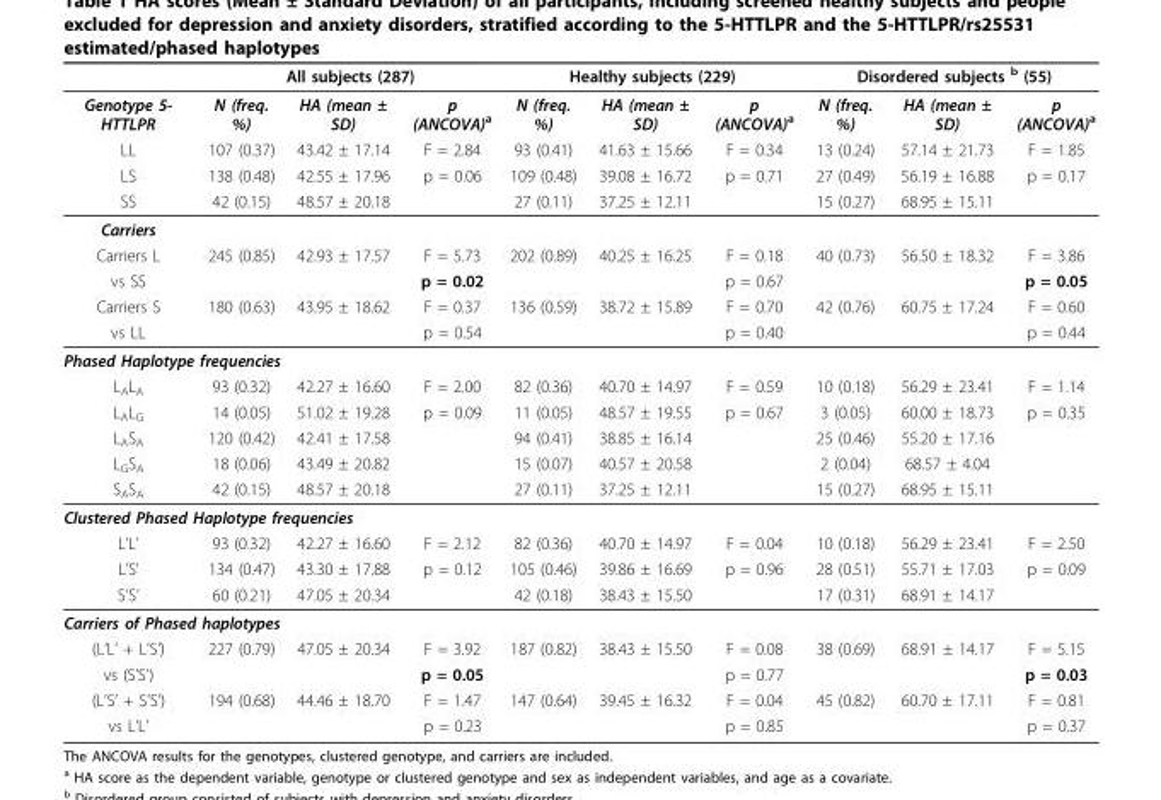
<table><thead><tr><td rowspan="2">Genotype 5- HTTLPR</td><td colspan="3">All subjects (287)</td><td colspan="3">Healthy subjects (229)</td><td colspan="3">Disordered subjects <sup>b</sup> (55)</td></tr><tr><td>N (freq. %)</td><td>HA (mean ± SD)</td><td>p (ANCOVA)<sup>a</sup></td><td>N (freq. %)</td><td>HA (mean ± SD)</td><td>p (ANCOVA)<sup>a</sup></td><td>N (freq. %)</td><td>HA (mean ± SD)</td><td>p (ANCOVA)<sup>a</sup></td></tr></thead><tbody><tr><td>LL</td><td>107 (0.37)</td><td>43.42 ± 17.14</td><td>F = 2.84</td><td>93 (0.41)</td><td>41.63 ± 15.66</td><td>F = 0.34</td><td>13 (0.24)</td><td>57.14 ± 21.73</td><td>F = 1.85</td></tr><tr><td>LS</td><td>138 (0.48)</td><td>42.55 ± 17.96</td><td>p = 0.06</td><td>109 (0.48)</td><td>39.08 ± 16.72</td><td>p = 0.71</td><td>27 (0.49)</td><td>56.19 ± 16.88</td><td>p = 0.17</td></tr><tr><td>SS</td><td>42 (0.15)</td><td>48.57 ± 20.18</td><td></td><td>27 (0.11)</td><td>37.25 ± 12.11</td><td></td><td>15 (0.27)</td><td>68.95 ± 15.11</td><td></td></tr><tr><td colspan="10">Carriers</td></tr><tr><td>Carriers L</td><td>245 (0.85)</td><td>42.93 ± 17.57</td><td>F = 5.73</td><td>202 (0.89)</td><td>40.25 ± 16.25</td><td>F = 0.18</td><td>40 (0.73)</td><td>56.50 ± 18.32</td><td>F = 3.86</td></tr><tr><td>vs SS</td><td></td><td></td><td>p = 0.02</td><td></td><td></td><td>p = 0.67</td><td></td><td></td><td>p = 0.05</td></tr><tr><td>Carriers S</td><td>180 (0.63)</td><td>43.95 ± 18.62</td><td>F = 0.37</td><td>136 (0.59)</td><td>38.72 ± 15.89</td><td>F = 0.70</td><td>42 (0.76)</td><td>60.75 ± 17.24</td><td>F = 0.60</td></tr><tr><td>vs LL</td><td></td><td></td><td>p = 0.54</td><td></td><td></td><td>p = 0.40</td><td></td><td></td><td>p = 0.44</td></tr><tr><td colspan="10">Phased Haplotype frequencies</td></tr><tr><td>L<sub>A</sub>L<sub>A</sub></td><td>93 (0.32)</td><td>42.27 ± 16.60</td><td>F = 2.00</td><td>82 (0.36)</td><td>40.70 ± 14.97</td><td>F = 0.59</td><td>10 (0.18)</td><td>56.29 ± 23.41</td><td>F = 1.14</td></tr><tr><td>L<sub>A</sub>L<sub>G</sub></td><td>14 (0.05)</td><td>51.02 ± 19.28</td><td>p = 0.09</td><td>11 (0.05)</td><td>48.57 ± 19.55</td><td>p = 0.67</td><td>3 (0.05)</td><td>60.00 ± 18.73</td><td>p = 0.35</td></tr><tr><td>L<sub>A</sub>S<sub>A</sub></td><td>120 (0.42)</td><td>42.41 ± 17.58</td><td></td><td>94 (0.41)</td><td>38.85 ± 16.14</td><td></td><td>25 (0.46)</td><td>55.20 ± 17.16</td><td></td></tr><tr><td>L<sub>G</sub>S<sub>A</sub></td><td>18 (0.06)</td><td>43.49 ± 20.82</td><td></td><td>15 (0.07)</td><td>40.57 ± 20.58</td><td></td><td>2 (0.04)</td><td>68.57 ± 4.04</td><td></td></tr><tr><td>S<sub>A</sub>S<sub>A</sub></td><td>42 (0.15)</td><td>48.57 ± 20.18</td><td></td><td>27 (0.11)</td><td>37.25 ± 12.11</td><td></td><td>15 (0.27)</td><td>68.95 ± 15.11</td><td></td></tr><tr><td colspan="10">Clustered Phased Haplotype frequencies</td></tr><tr><td>L’L’</td><td>93 (0.32)</td><td>42.27 ± 16.60</td><td>F = 2.12</td><td>82 (0.36)</td><td>40.70 ± 14.97</td><td>F = 0.04</td><td>10 (0.18)</td><td>56.29 ± 23.41</td><td>F = 2.50</td></tr><tr><td>L’S’</td><td>134 (0.47)</td><td>43.30 ± 17.88</td><td>p = 0.12</td><td>105 (0.46)</td><td>39.86 ± 16.69</td><td>p = 0.96</td><td>28 (0.51)</td><td>55.71 ± 17.03</td><td>p = 0.09</td></tr><tr><td>S’S’</td><td>60 (0.21)</td><td>47.05 ± 20.34</td><td></td><td>42 (0.18)</td><td>38.43 ± 15.50</td><td></td><td>17 (0.31)</td><td>68.91 ± 14.17</td><td></td></tr><tr><td colspan="10">Carriers of Phased haplotypes</td></tr><tr><td>(L’L’ + L’S’)</td><td>227 (0.79)</td><td>47.05 ± 20.34</td><td>F = 3.92</td><td>187 (0.82)</td><td>38.43 ± 15.50</td><td>F = 0.08</td><td>38 (0.69)</td><td>68.91 ± 14.17</td><td>F = 5.15</td></tr><tr><td>vs (S’S’)</td><td></td><td></td><td>p = 0.05</td><td></td><td></td><td>p = 0.77</td><td></td><td></td><td>p = 0.03</td></tr><tr><td>(L’S’ + S’S’)</td><td>194 (0.68)</td><td>44.46 ± 18.70</td><td>F = 1.47</td><td>147 (0.64)</td><td>39.45 ± 16.32</td><td>F = 0.04</td><td>45 (0.82)</td><td>60.70 ± 17.11</td><td>F = 0.81</td></tr><tr><td>vs L’L’</td><td></td><td></td><td>p = 0.23</td><td></td><td></td><td>p = 0.85</td><td></td><td></td><td>p = 0.37</td></tr></tbody></table>